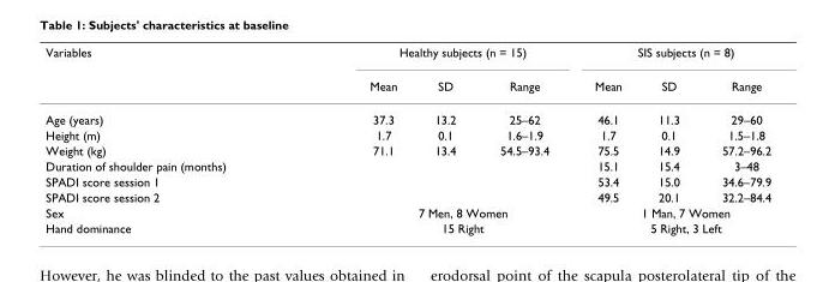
<table><thead><tr><td rowspan="2">Variables</td><td colspan="3">Healthy subjects (n = 15)</td><td colspan="3">SIS subjects (n = 8)</td></tr><tr><td>Mean</td><td>SD</td><td>Range</td><td>Mean</td><td>SD</td><td>Range</td></tr></thead><tbody><tr><td>Age (years)</td><td>37.3</td><td>13.2</td><td>25–62</td><td>46.1</td><td>11.3</td><td>29–60</td></tr><tr><td>Height (m)</td><td>1.7</td><td>0.1</td><td>1.6–1.9</td><td>1.7</td><td>0.1</td><td>1.5–1.8</td></tr><tr><td>Weight (kg)</td><td>71.1</td><td>13.4</td><td>54.5–93.4</td><td>75.5</td><td>14.9</td><td>57.2–96.2</td></tr><tr><td>Duration of shoulder pain (months)</td><td></td><td></td><td></td><td>15.1</td><td>15.4</td><td>3–48</td></tr><tr><td>SPADI score session 1</td><td></td><td></td><td></td><td>53.4</td><td>15.0</td><td>34.6–79.9</td></tr><tr><td>SPADI score session 2</td><td></td><td></td><td></td><td>49.5</td><td>20.1</td><td>32.2–84.4</td></tr><tr><td>Sex</td><td colspan="3">7 Men, 8 Women</td><td colspan="3">1 Man, 7 Women</td></tr><tr><td>Hand dominance</td><td colspan="3">15 Right</td><td colspan="3">5 Right, 3 Left</td></tr></tbody></table>